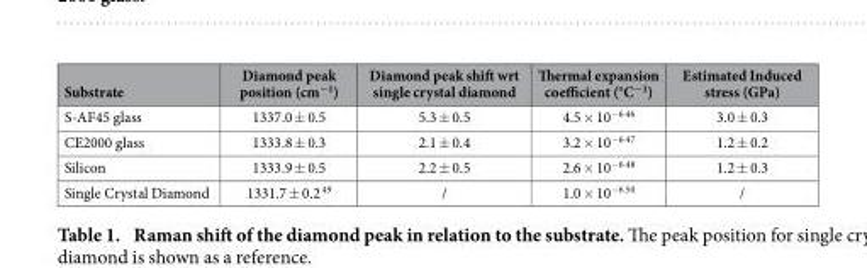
<table><thead><tr><td>Substrate</td><td>Diamond peak position (cm<sup>−1</sup>)</td><td>Diamond peak shift wrt single crystal diamond</td><td>Thermal expansion coefficient (°C<sup>−1</sup>)</td><td>Estimated Induced stress (GPa)</td></tr></thead><tbody><tr><td>S-AF45 glass</td><td>1337.0 ± 0.5</td><td>5.3 ± 0.5</td><td>4.5 × 10<sup>−6</sup> 46</td><td>3.0 ± 0.3</td></tr><tr><td>CE2000 glass</td><td>1333.8 ± 0.3</td><td>2.1 ± 0.4</td><td>3.2 × 10<sup>−6</sup> 47</td><td>1.2 ± 0.2</td></tr><tr><td>Silicon</td><td>1333.9 ± 0.5</td><td>2.2 ± 0.5</td><td>2.6 × 10<sup>−6</sup> 48</td><td>1.2 ± 0.3</td></tr><tr><td>Single Crystal Diamond</td><td>1331.7 ± 0.2 49</td><td>/</td><td>1.0 × 10<sup>−6</sup> 50</td><td>/</td></tr></tbody></table>